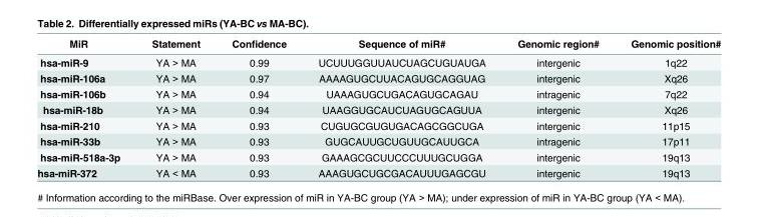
<table><thead><tr><td>MiR</td><td>Statement</td><td>Confidence</td><td>Sequence of miR#</td><td>Genomic region#</td><td>Genomic position#</td></tr></thead><tbody><tr><td>hsa-miR-9</td><td>YA &gt; MA</td><td>0.99</td><td>UCUUUGGUUAUCUAGCUGUAUGA</td><td>intergenic</td><td>1q22</td></tr><tr><td>hsa-miR-106a</td><td>YA &gt; MA</td><td>0.97</td><td>AAAAGUGCUUACAGUGCAGGUAG</td><td>intergenic</td><td>Xq26</td></tr><tr><td>hsa-miR-106b</td><td>YA &gt; MA</td><td>0.94</td><td>UAAAGUGCUGACAGUGCAGAU</td><td>intragenic</td><td>7q22</td></tr><tr><td>hsa-miR-18b</td><td>YA &gt; MA</td><td>0.94</td><td>UAAGGUGCAUCUAGUGCAGUUA</td><td>intergenic</td><td>Xq26</td></tr><tr><td>hsa-miR-210</td><td>YA &gt; MA</td><td>0.93</td><td>CUGUGCGUGUGACAGCGGCUGA</td><td>intergenic</td><td>11p15</td></tr><tr><td>hsa-miR-33b</td><td>YA &gt; MA</td><td>0.93</td><td>GUGCAUUGCUGUUGCAUUGCA</td><td>intragenic</td><td>17p11</td></tr><tr><td>hsa-miR-518a-3p</td><td>YA &gt; MA</td><td>0.93</td><td>GAAAGCGCUUCCCUUUGCUGGA</td><td>intergenic</td><td>19q13</td></tr><tr><td>hsa-miR-372</td><td>YA &lt; MA</td><td>0.93</td><td>AAAGUGCUGCGACAUUUGAGCGU</td><td>intergenic</td><td>19q13</td></tr></tbody></table>